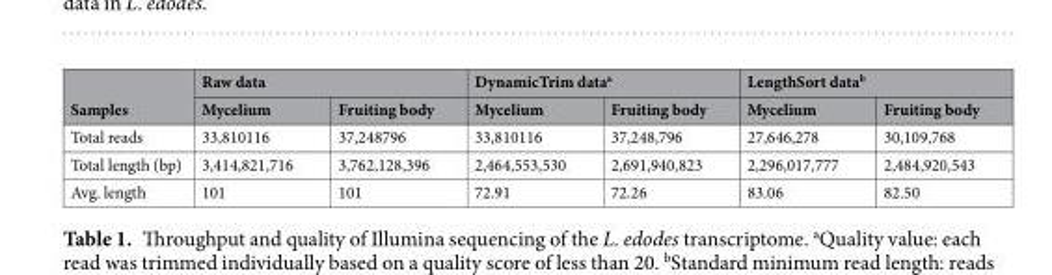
<table><thead><tr><td rowspan="2">Samples</td><td colspan="2">Raw data</td><td colspan="2">DynamicTrim data<sup>a</sup></td><td colspan="2">LengthSort data<sup>b</sup></td></tr><tr><td>Mycelium</td><td>Fruiting body</td><td>Mycelium</td><td>Fruiting body</td><td>Mycelium</td><td>Fruiting body</td></tr></thead><tbody><tr><td>Total reads</td><td>33,810116</td><td>37,248796</td><td>33,810116</td><td>37,248,796</td><td>27,646,278</td><td>30,109,768</td></tr><tr><td>Total length (bp)</td><td>3,414,821,716</td><td>3,762,128,396</td><td>2,464,553,530</td><td>2,691,940,823</td><td>2,296,017,777</td><td>2,484,920,543</td></tr><tr><td>Avg. length</td><td>101</td><td>101</td><td>72.91</td><td>72.26</td><td>83.06</td><td>82.50</td></tr></tbody></table>